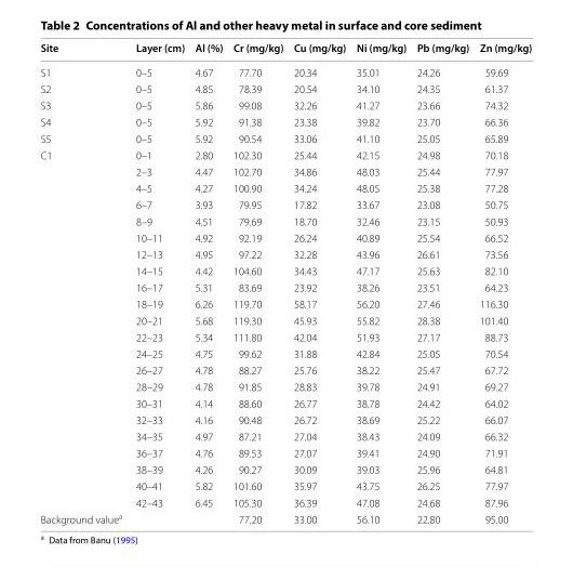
<table><thead><tr><td>Site</td><td>Layer (cm)</td><td>Al (%)</td><td>Cr (mg/kg)</td><td>Cu (mg/kg)</td><td>Ni (mg/kg)</td><td>Pb (mg/kg)</td><td>Zn (mg/kg)</td></tr></thead><tbody><tr><td>S1</td><td>0–5</td><td>4.67</td><td>77.70</td><td>20.34</td><td>35.01</td><td>24.26</td><td>59.69</td></tr><tr><td>S2</td><td>0–5</td><td>4.85</td><td>78.39</td><td>20.54</td><td>34.10</td><td>24.35</td><td>61.37</td></tr><tr><td>S3</td><td>0–5</td><td>5.86</td><td>99.08</td><td>32.26</td><td>41.27</td><td>23.66</td><td>74.32</td></tr><tr><td>S4</td><td>0–5</td><td>5.92</td><td>91.38</td><td>23.38</td><td>39.82</td><td>23.70</td><td>66.36</td></tr><tr><td>S5</td><td>0–5</td><td>5.92</td><td>90.54</td><td>33.06</td><td>41.10</td><td>25.05</td><td>65.89</td></tr><tr><td rowspan="22">C1</td><td>0–1</td><td>2.80</td><td>102.30</td><td>25.44</td><td>42.15</td><td>24.98</td><td>70.18</td></tr><tr><td>2–3</td><td>4.47</td><td>102.70</td><td>34.86</td><td>48.03</td><td>25.44</td><td>77.97</td></tr><tr><td>4–5</td><td>4.27</td><td>100.90</td><td>34.24</td><td>48.05</td><td>25.38</td><td>77.28</td></tr><tr><td>6–7</td><td>3.93</td><td>79.95</td><td>17.82</td><td>33.67</td><td>23.08</td><td>50.75</td></tr><tr><td>8–9</td><td>4.51</td><td>79.69</td><td>18.70</td><td>32.46</td><td>23.15</td><td>50.93</td></tr><tr><td>10–11</td><td>4.92</td><td>92.19</td><td>26.24</td><td>40.89</td><td>25.54</td><td>66.52</td></tr><tr><td>12–13</td><td>4.95</td><td>97.22</td><td>32.28</td><td>43.96</td><td>26.61</td><td>73.56</td></tr><tr><td>14–15</td><td>4.42</td><td>104.60</td><td>34.43</td><td>47.17</td><td>25.63</td><td>82.10</td></tr><tr><td>16–17</td><td>5.31</td><td>83.69</td><td>23.92</td><td>38.26</td><td>23.51</td><td>64.23</td></tr><tr><td>18–19</td><td>6.26</td><td>119.70</td><td>58.17</td><td>56.20</td><td>27.46</td><td>116.30</td></tr><tr><td>20–21</td><td>5.68</td><td>119.30</td><td>45.93</td><td>55.82</td><td>28.38</td><td>101.40</td></tr><tr><td>22–23</td><td>5.34</td><td>111.80</td><td>42.04</td><td>51.93</td><td>27.17</td><td>88.73</td></tr><tr><td>24–25</td><td>4.75</td><td>99.62</td><td>31.88</td><td>42.84</td><td>25.05</td><td>70.54</td></tr><tr><td>26–27</td><td>4.78</td><td>88.27</td><td>25.76</td><td>38.22</td><td>25.47</td><td>67.72</td></tr><tr><td>28–29</td><td>4.78</td><td>91.85</td><td>28.83</td><td>39.78</td><td>24.91</td><td>69.27</td></tr><tr><td>30–31</td><td>4.14</td><td>88.60</td><td>26.77</td><td>38.78</td><td>24.42</td><td>64.02</td></tr><tr><td>32–33</td><td>4.16</td><td>90.48</td><td>26.72</td><td>38.69</td><td>25.22</td><td>66.07</td></tr><tr><td>34–35</td><td>4.97</td><td>87.21</td><td>27.04</td><td>38.43</td><td>24.09</td><td>66.32</td></tr><tr><td>36–37</td><td>4.76</td><td>89.53</td><td>27.07</td><td>39.41</td><td>24.90</td><td>71.91</td></tr><tr><td>38–39</td><td>4.26</td><td>90.27</td><td>30.09</td><td>39.03</td><td>25.96</td><td>64.81</td></tr><tr><td>40–41</td><td>5.82</td><td>101.60</td><td>35.97</td><td>43.75</td><td>26.25</td><td>77.97</td></tr><tr><td>42–43</td><td>6.45</td><td>105.30</td><td>36.39</td><td>47.08</td><td>24.68</td><td>87.96</td></tr><tr><td colspan="2">Background value<sup>a</sup></td><td></td><td>77.20</td><td>33.00</td><td>56.10</td><td>22.80</td><td>95.00</td></tr></tbody></table>